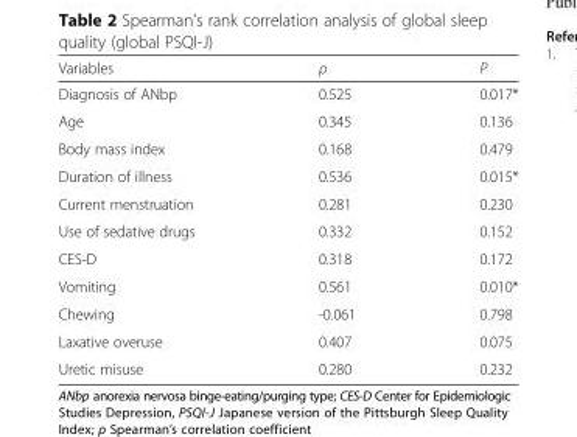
<table><thead><tr><td>Variables</td><td>ρ</td><td>P</td></tr></thead><tbody><tr><td>Diagnosis of ANbp</td><td>0.525</td><td>0.017*</td></tr><tr><td>Age</td><td>0.345</td><td>0.136</td></tr><tr><td>Body mass index</td><td>0.168</td><td>0.479</td></tr><tr><td>Duration of illness</td><td>0.536</td><td>0.015*</td></tr><tr><td>Current menstruation</td><td>0.281</td><td>0.230</td></tr><tr><td>Use of sedative drugs</td><td>0.332</td><td>0.152</td></tr><tr><td>CES-D</td><td>0.318</td><td>0.172</td></tr><tr><td>Vomiting</td><td>0.561</td><td>0.010*</td></tr><tr><td>Chewing</td><td>-0.061</td><td>0.798</td></tr><tr><td>Laxative overuse</td><td>0.407</td><td>0.075</td></tr><tr><td>Uretic misuse</td><td>0.280</td><td>0.232</td></tr></tbody></table>